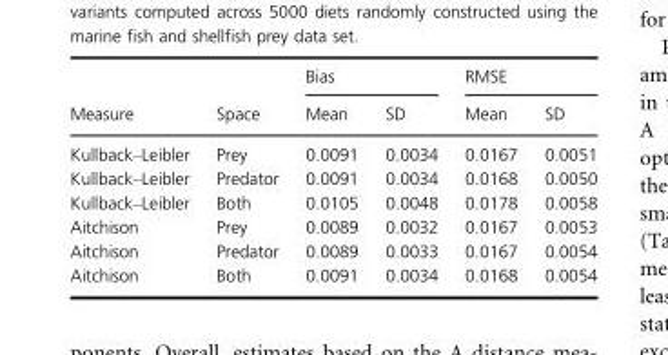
<table><thead><tr><td rowspan="2">Measure</td><td rowspan="2">Space</td><td colspan="2">Bias</td><td colspan="2">RMSE</td></tr><tr><td>Mean</td><td>SD</td><td>Mean</td><td>SD</td></tr></thead><tbody><tr><td>Kullback–Leibler</td><td>Prey</td><td>0.0091</td><td>0.0034</td><td>0.0167</td><td>0.0051</td></tr><tr><td>Kullback–Leibler</td><td>Predator</td><td>0.0091</td><td>0.0034</td><td>0.0168</td><td>0.0050</td></tr><tr><td>Kullback–Leibler</td><td>Both</td><td>0.0105</td><td>0.0048</td><td>0.0178</td><td>0.0058</td></tr><tr><td>Aitchison</td><td>Prey</td><td>0.0089</td><td>0.0032</td><td>0.0167</td><td>0.0053</td></tr><tr><td>Aitchison</td><td>Predator</td><td>0.0089</td><td>0.0033</td><td>0.0167</td><td>0.0054</td></tr><tr><td>Aitchison</td><td>Both</td><td>0.0091</td><td>0.0034</td><td>0.0168</td><td>0.0054</td></tr></tbody></table>